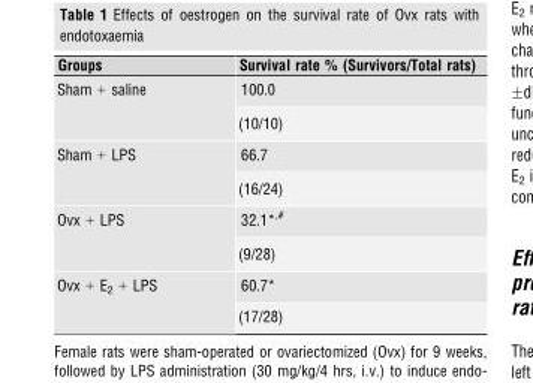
<table><thead><tr><td>Groups</td><td>Survival rate % (Survivors/Total rats)</td></tr></thead><tbody><tr><td rowspan="2">Sham + saline</td><td>100.0</td></tr><tr><td>(10/10)</td></tr><tr><td rowspan="2">Sham + LPS</td><td>66.7</td></tr><tr><td>(16/24)</td></tr><tr><td rowspan="2">Ovx + LPS</td><td>32.1*<sup>,</sup>#</td></tr><tr><td>(9/28)</td></tr><tr><td rowspan="2">Ovx + E<sub>2</sub> + LPS</td><td>60.7*</td></tr><tr><td>(17/28)</td></tr></tbody></table>